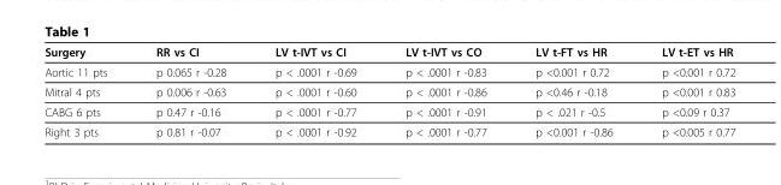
<table><thead><tr><td>Surgery</td><td>RR vs CI</td><td>LV t-IVT vs CI</td><td>LV t-IVT vs CO</td><td>LV t-FT vs HR</td><td>LV t-ET vs HR</td></tr></thead><tbody><tr><td>Aortic 11 pts</td><td>p 0.065 r -0.28</td><td>p &lt; .0001 r -0.69</td><td>p &lt; .0001 r -0.83</td><td>p &lt;0.001 r 0.72</td><td>p &lt;0.001 r 0.72</td></tr><tr><td>Mitral 4 pts</td><td>p 0.006 r -0.63</td><td>p &lt; .0001 r -0.60</td><td>p &lt; .0001 r -0.86</td><td>p &lt;0.46 r -0.18</td><td>p &lt;0.001 r 0.83</td></tr><tr><td>CABG 6 pts</td><td>p 0.47 r -0.16</td><td>p &lt; .0001 r -0.77</td><td>p &lt; .0001 r -0.91</td><td>p &lt; .021 r -0.5</td><td>p &lt;0.09 r 0.37</td></tr><tr><td>Right 3 pts</td><td>p 0.81 r -0.07</td><td>p &lt; .0001 r -0.92</td><td>p &lt; .0001 r -0.77</td><td>p &lt;0.001 r -0.86</td><td>p &lt;0.005 r 0.77</td></tr></tbody></table>